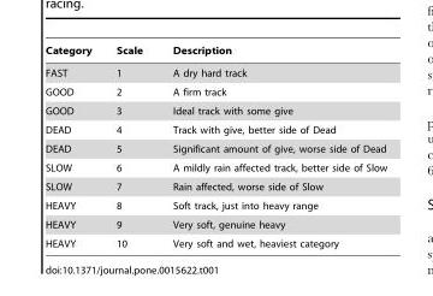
<table><thead><tr><td>Category</td><td>Scale</td><td>Description</td></tr></thead><tbody><tr><td>FAST</td><td>1</td><td>A dry hard track</td></tr><tr><td>GOOD</td><td>2</td><td>A firm track</td></tr><tr><td>GOOD</td><td>3</td><td>Ideal track with some give</td></tr><tr><td>DEAD</td><td>4</td><td>Track with give, better side of Dead</td></tr><tr><td>DEAD</td><td>5</td><td>Significant amount of give, worse side of Dead</td></tr><tr><td>SLOW</td><td>6</td><td>A mildly rain affected track, better side of Slow</td></tr><tr><td>SLOW</td><td>7</td><td>Rain affected, worse side of Slow</td></tr><tr><td>HEAVY</td><td>8</td><td>Soft track, just into heavy range</td></tr><tr><td>HEAVY</td><td>9</td><td>Very soft, genuine heavy</td></tr><tr><td>HEAVY</td><td>10</td><td>Very soft and wet, heaviest category</td></tr></tbody></table>